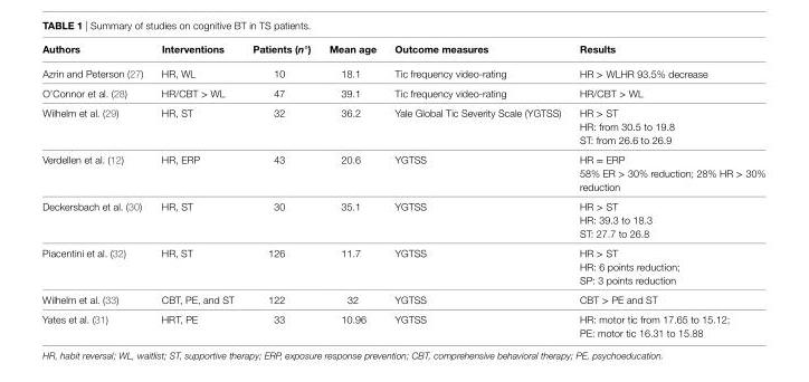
<table><thead><tr><td>authors</td><td>interventions</td><td>Patients (n°)</td><td>Mean age</td><td>Outcome measures</td><td>results</td></tr></thead><tbody><tr><td>Azrin and Peterson (27)</td><td>HR, WL</td><td>10</td><td>18.1</td><td>Tic frequency video-rating</td><td>HR &gt; WLHR 93.5% decrease</td></tr><tr><td>O’Connor et al. (28)</td><td>HR/CBT &gt; WL</td><td>47</td><td>39.1</td><td>Tic frequency video-rating</td><td>HR/CBT &gt; WL</td></tr><tr><td>Wilhelm et al. (29)</td><td>HR, ST</td><td>32</td><td>36.2</td><td>Yale Global Tic Severity Scale (YGTSS)</td><td>HR &gt; ST HR: from 30.5 to 19.8 ST: from 26.6 to 26.9</td></tr><tr><td>Verdellen et al. (12)</td><td>HR, ERP</td><td>43</td><td>20.6</td><td>YGTSS</td><td>HR = ERP 58% ER &gt; 30% reduction; 28% HR &gt; 30% reduction</td></tr><tr><td>Deckersbach et al. (30)</td><td>HR, ST</td><td>30</td><td>35.1</td><td>YGTSS</td><td>HR &gt; ST HR: 39.3 to 18.3 ST: 27.7 to 26.8</td></tr><tr><td>Piacentini et al. (32)</td><td>HR, ST</td><td>126</td><td>11.7</td><td>YGTSS</td><td>HR &gt; ST HR: 6 points reduction; SP: 3 points reduction</td></tr><tr><td>Wilhelm et al. (33)</td><td>CBT, PE, and ST</td><td>122</td><td>32</td><td>YGTSS</td><td>CBT &gt; PE and ST</td></tr><tr><td>Yates et al. (31)</td><td>HRT, PE</td><td>33</td><td>10.96</td><td>YGTSS</td><td>HR: motor tic from 17.65 to 15.12; PE: motor tic 16.31 to 15.88</td></tr></tbody></table>